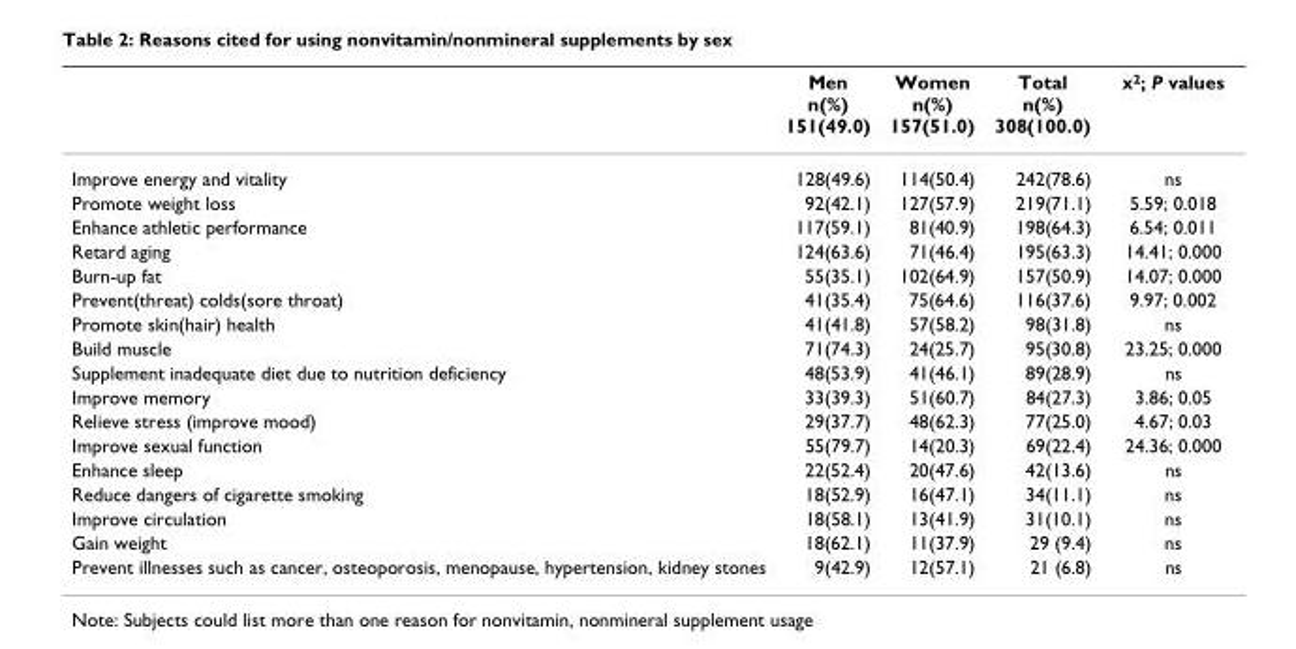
<table><thead><tr><td></td><td>Men n(%) 151(49.0)</td><td>Women n(%) 157(51.0)</td><td>Total n(%) 308(100.0)</td><td>x<sup>2</sup>; P values</td></tr></thead><tbody><tr><td>Improve energy and vitality</td><td>128(49.6)</td><td>114(50.4)</td><td>242(78.6)</td><td>ns</td></tr><tr><td>Promote weight loss</td><td>92(42.1)</td><td>127(57.9)</td><td>219(71.1)</td><td>5.59; 0.018</td></tr><tr><td>Enhance athletic performance</td><td>117(59.1)</td><td>81(40.9)</td><td>198(64.3)</td><td>6.54; 0.011</td></tr><tr><td>Retard aging</td><td>124(63.6)</td><td>71(46.4)</td><td>195(63.3)</td><td>14.41; 0.000</td></tr><tr><td>Burn-up fat</td><td>55(35.1)</td><td>102(64.9)</td><td>157(50.9)</td><td>14.07; 0.000</td></tr><tr><td>Prevent(threat) colds(sore throat)</td><td>41(35.4)</td><td>75(64.6)</td><td>116(37.6)</td><td>9.97; 0.002</td></tr><tr><td>Promote skin(hair) health</td><td>41(41.8)</td><td>57(58.2)</td><td>98(31.8)</td><td>ns</td></tr><tr><td>Build muscle</td><td>71(74.3)</td><td>24(25.7)</td><td>95(30.8)</td><td>23.25; 0.000</td></tr><tr><td>Supplement inadequate diet due to nutrition deficiency</td><td>48(53.9)</td><td>41(46.1)</td><td>89(28.9)</td><td>ns</td></tr><tr><td>Improve memory</td><td>33(39.3)</td><td>51(60.7)</td><td>84(27.3)</td><td>3.86; 0.05</td></tr><tr><td>Relieve stress (improve mood)</td><td>29(37.7)</td><td>48(62.3)</td><td>77(25.0)</td><td>4.67; 0.03</td></tr><tr><td>Improve sexual function</td><td>55(79.7)</td><td>14(20.3)</td><td>69(22.4)</td><td>24.36; 0.000</td></tr><tr><td>Enhance sleep</td><td>22(52.4)</td><td>20(47.6)</td><td>42(13.6)</td><td>ns</td></tr><tr><td>Reduce dangers of cigarette smoking</td><td>18(52.9)</td><td>16(47.1)</td><td>34(11.1)</td><td>ns</td></tr><tr><td>Improve circulation</td><td>18(58.1)</td><td>13(41.9)</td><td>31(10.1)</td><td>ns</td></tr><tr><td>Gain weight</td><td>18(62.1)</td><td>11(37.9)</td><td>29 (9.4)</td><td>ns</td></tr><tr><td>Prevent illnesses such as cancer, osteoporosis, menopause, hypertension, kidney stones</td><td>9(42.9)</td><td>12(57.1)</td><td>21 (6.8)</td><td>ns</td></tr></tbody></table>